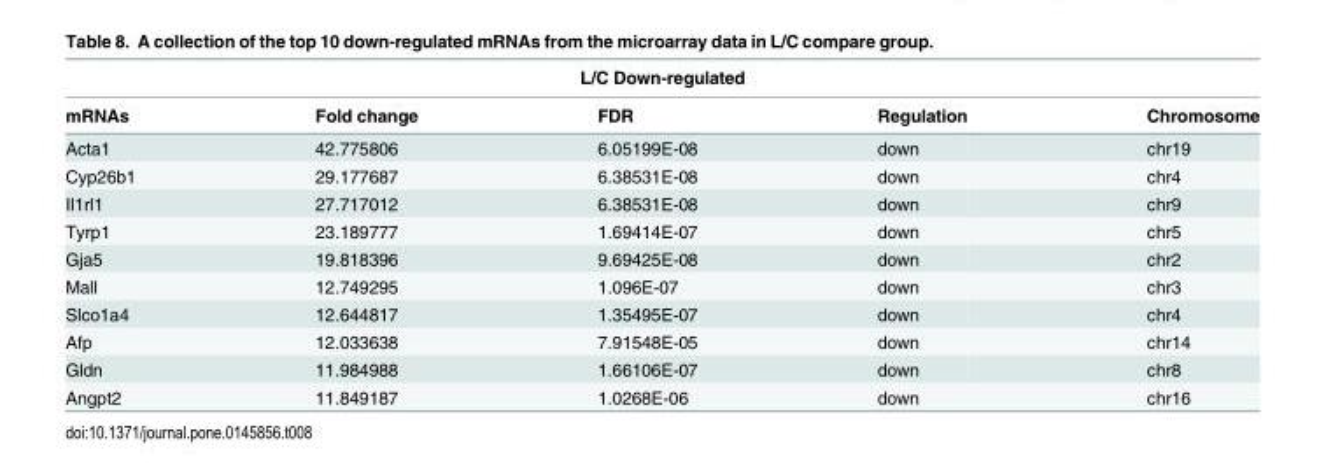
<table><thead><tr><td colspan="5">L/C Down-regulated</td></tr><tr><td>mRNAs</td><td>Fold change</td><td>FDR</td><td>Regulation</td><td>Chromosome</td></tr></thead><tbody><tr><td>Acta1</td><td>42.775806</td><td>6.05199E-08</td><td>down</td><td>chr19</td></tr><tr><td>Cyp26b1</td><td>29.177687</td><td>6.38531E-08</td><td>down</td><td>chr4</td></tr><tr><td>Il1rl1</td><td>27.717012</td><td>6.38531E-08</td><td>down</td><td>chr9</td></tr><tr><td>Tyrp1</td><td>23.189777</td><td>1.69414E-07</td><td>down</td><td>chr5</td></tr><tr><td>Gja5</td><td>19.818396</td><td>9.69425E-08</td><td>down</td><td>chr2</td></tr><tr><td>Mall</td><td>12.749295</td><td>1.096E-07</td><td>down</td><td>chr3</td></tr><tr><td>Slco1a4</td><td>12.644817</td><td>1.35495E-07</td><td>down</td><td>chr4</td></tr><tr><td>Afp</td><td>12.033638</td><td>7.91548E-05</td><td>down</td><td>chr14</td></tr><tr><td>Gldn</td><td>11.984988</td><td>1.66106E-07</td><td>down</td><td>chr8</td></tr><tr><td>Angpt2</td><td>11.849187</td><td>1.0268E-06</td><td>down</td><td>chr16</td></tr></tbody></table>